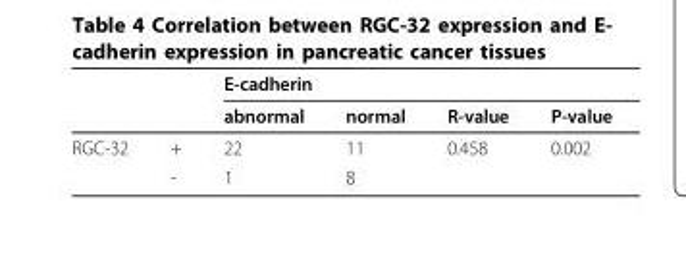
<table><thead><tr><td rowspan="2"></td><td rowspan="2"></td><td colspan="4">E-cadherin</td></tr><tr><td>abnormal</td><td>normal</td><td>R-value</td><td>P-value</td></tr></thead><tbody><tr><td rowspan="2">RGC-32</td><td>+</td><td>22</td><td>11</td><td>0.458</td><td>0.002</td></tr><tr><td>-</td><td>1</td><td>8</td><td></td><td></td></tr></tbody></table>